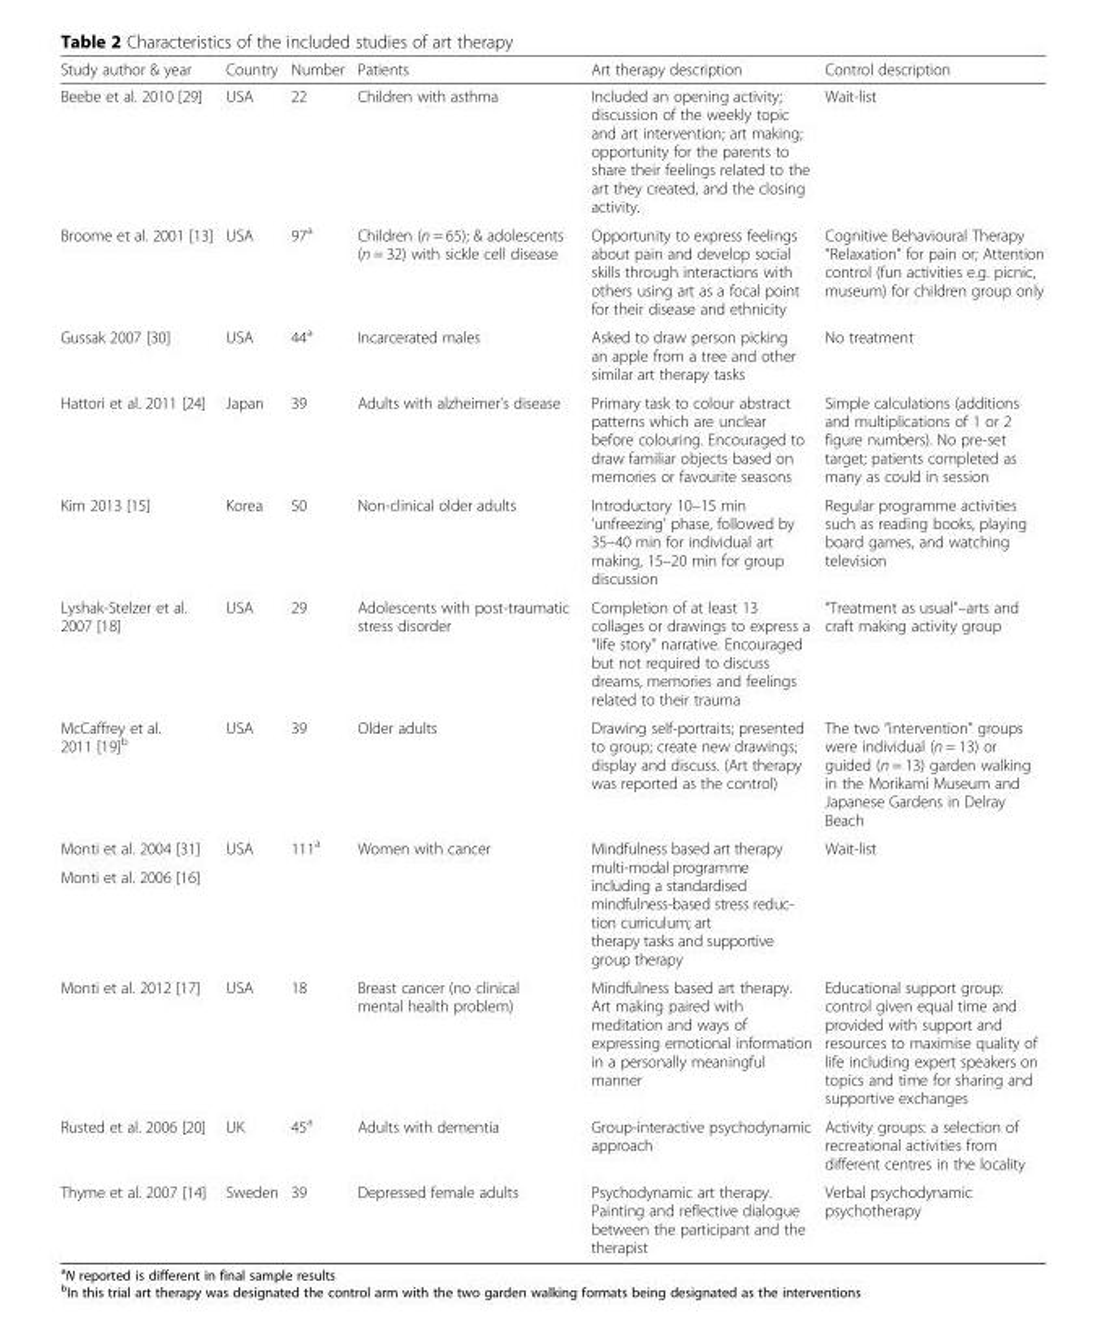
<table><thead><tr><td>Study author &amp; year</td><td>Country</td><td>Number</td><td>Patients</td><td>Art therapy description</td><td>Control description</td></tr></thead><tbody><tr><td>Beebe et al. 2010 [29]</td><td>USA</td><td>22</td><td>Children with asthma</td><td>Included an opening activity; discussion of the weekly topic and art intervention; art making; opportunity for the parents to share their feelings related to the art they created, and the closing activity.</td><td>Wait-list</td></tr><tr><td>Broome et al. 2001 [13]</td><td>USA</td><td>97<sup>a</sup></td><td>Children (n = 65); &amp; adolescents (n = 32) with sickle cell disease</td><td>Opportunity to express feelings about pain and develop social skills through interactions with others using art as a focal point for their disease and ethnicity</td><td>Cognitive Behavioural Therapy “Relaxation” for pain or; Attention control (fun activities e.g. picnic, museum) for children group only</td></tr><tr><td>Gussak 2007 [30]</td><td>USA</td><td>44<sup>a</sup></td><td>Incarcerated males</td><td>Asked to draw person picking an apple from a tree and other similar art therapy tasks</td><td>No treatment</td></tr><tr><td>Hattori et al. 2011 [24]</td><td>Japan</td><td>39</td><td>Adults with alzheimer’s disease</td><td>Primary task to colour abstract patterns which are unclear before colouring. Encouraged to draw familiar objects based on memories or favourite seasons</td><td>Simple calculations (additions and multiplications of 1 or 2 figure numbers). No pre-set target; patients completed as many as could in session</td></tr><tr><td>Kim 2013 [15]</td><td>Korea</td><td>50</td><td>Non-clinical older adults</td><td>Introductory 10–15 min ‘unfreezing’ phase, followed by 35–40 min for individual art making, 15–20 min for group discussion</td><td>Regular programme activities such as reading books, playing board games, and watching television</td></tr><tr><td>Lyshak-Stelzer et al. 2007 [18]</td><td>USA</td><td>29</td><td>Adolescents with post-traumatic stress disorder</td><td>Completion of at least 13 collages or drawings to express a “life story” narrative. Encouraged but not required to discuss dreams, memories and feelings related to their trauma</td><td>“Treatment as usual”–arts and craft making activity group</td></tr><tr><td>McCaffrey et al. 2011 [19]<sup>b</sup></td><td>USA</td><td>39</td><td>Older adults</td><td>Drawing self-portraits; presented to group; create new drawings; display and discuss. (Art therapy was reported as the control)</td><td>The two “intervention” groups were individual (n = 13) or guided (n = 13) garden walking in the Morikami Museum and Japanese Gardens in Delray Beach</td></tr><tr><td>Monti et al. 2004 [31]</td><td rowspan="2">USA</td><td rowspan="2">111<sup>a</sup></td><td rowspan="2">Women with cancer</td><td rowspan="2">Mindfulness based art therapy multi-modal programme including a standardised mindfulness-based stress reduc- tion curriculum; art therapy tasks and supportive group therapy</td><td rowspan="2">Wait-list</td></tr><tr><td>Monti et al. 2006 [16]</td></tr><tr><td>Monti et al. 2012 [17]</td><td>USA</td><td>18</td><td>Breast cancer (no clinical mental health problem)</td><td>Mindfulness based art therapy. Art making paired with meditation and ways of expressing emotional information in a personally meaningful manner</td><td>Educational support group: control given equal time and provided with support and resources to maximise quality of life including expert speakers on topics and time for sharing and supportive exchanges</td></tr><tr><td>Rusted et al. 2006 [20]</td><td>UK</td><td>45<sup>a</sup></td><td>Adults with dementia</td><td>Group-interactive psychodynamic approach</td><td>Activity groups: a selection of recreational activities from different centres in the locality</td></tr><tr><td>Thyme et al. 2007 [14]</td><td>Sweden</td><td>39</td><td>Depressed female adults</td><td>Psychodynamic art therapy. Painting and reflective dialogue between the participant and the therapist</td><td>Verbal psychodynamic psychotherapy</td></tr></tbody></table>